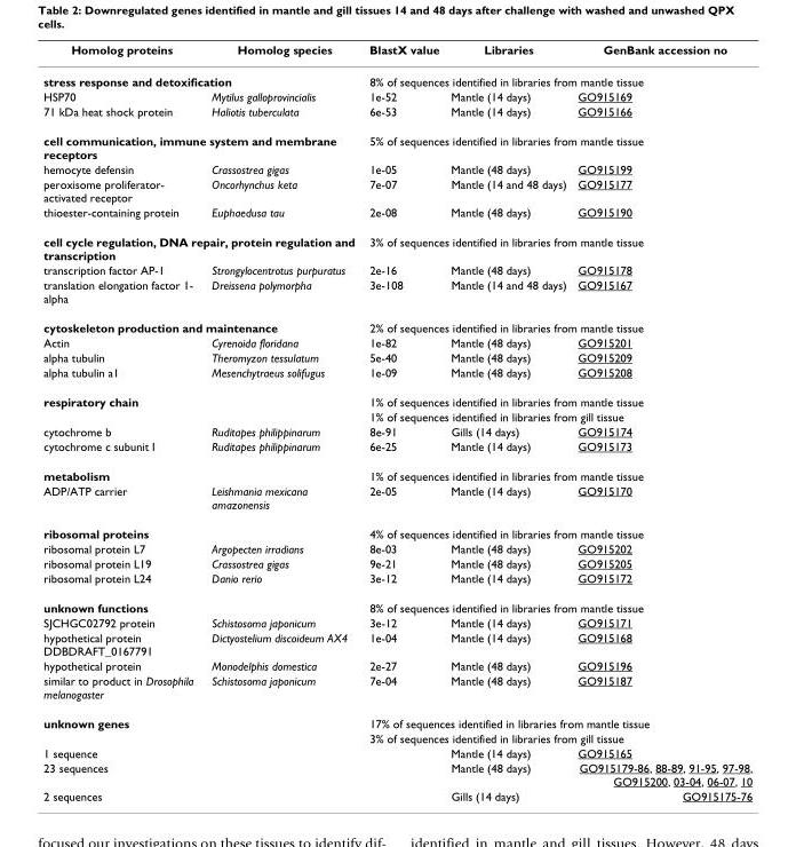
<table><thead><tr><td>Homolog proteins</td><td>Homolog species</td><td>BlastX value</td><td>Libraries</td><td>GenBank accession no</td></tr></thead><tbody><tr><td colspan="2">stress response and detoxification</td><td colspan="3">8% of sequences identified in libraries from mantle tissue</td></tr><tr><td>HSP70</td><td>Mytilus galloprovincialis</td><td>1e-52</td><td>Mantle (14 days)</td><td>GO915169</td></tr><tr><td>71 kDa heat shock protein</td><td>Haliotis tuberculata</td><td>6e-53</td><td>Mantle (14 days)</td><td>GO915166</td></tr><tr><td colspan="2">cell communication, immune system and membrane receptors</td><td colspan="3">5% of sequences identified in libraries from mantle tissue</td></tr><tr><td>hemocyte defensin</td><td>Crassostrea gigas</td><td>1e-05</td><td>Mantle (48 days)</td><td>GO915199</td></tr><tr><td>peroxisome proliferator- activated receptor</td><td>Oncorhynchus keta</td><td>7e-07</td><td>Mantle (14 and 48 days)</td><td>GO915177</td></tr><tr><td>thioester-containing protein</td><td>Euphaedusa tau</td><td>2e-08</td><td>Mantle (48 days)</td><td>GO915190</td></tr><tr><td colspan="2">cell cycle regulation, DNA repair, protein regulation and transcription</td><td colspan="3">3% of sequences identified in libraries from mantle tissue</td></tr><tr><td>transcription factor AP-1</td><td>Strongylocentrotus purpuratus</td><td>2e-16</td><td>Mantle (48 days)</td><td>GO915178</td></tr><tr><td>translation elongation factor 1- alpha</td><td>Dreissena polymorpha</td><td>3e-108</td><td>Mantle (14 and 48 days)</td><td>GO915167</td></tr><tr><td colspan="2">cytoskeleton production and maintenance</td><td colspan="3">2% of sequences identified in libraries from mantle tissue</td></tr><tr><td>Actin</td><td>Cyrenoida floridana</td><td>1e-82</td><td>Mantle (48 days)</td><td>GO915201</td></tr><tr><td>alpha tubulin</td><td>Theromyzon tessulatum</td><td>5e-40</td><td>Mantle (48 days)</td><td>GO915209</td></tr><tr><td>alpha tubulin a1</td><td>Mesenchytraeus solifugus</td><td>1e-09</td><td>Mantle (48 days)</td><td>GO915208</td></tr><tr><td colspan="2">respiratory chain</td><td colspan="3">1% of sequences identified in libraries from mantle tissue</td></tr><tr><td></td><td></td><td colspan="3">1% of sequences identified in libraries from gill tissue</td></tr><tr><td>cytochrome b</td><td>Ruditapes philippinarum</td><td>8e-91</td><td>Gills (14 days)</td><td>GO915174</td></tr><tr><td>cytochrome c subunit I</td><td>Ruditapes philippinarum</td><td>6e-25</td><td>Mantle (14 days)</td><td>GO915173</td></tr><tr><td colspan="2">metabolism</td><td colspan="3">1% of sequences identified in libraries from mantle tissue</td></tr><tr><td>ADP/ATP carrier</td><td>Leishmania mexicana amazonensis</td><td>2e-05</td><td>Mantle (14 days)</td><td>GO915170</td></tr><tr><td colspan="2">ribosomal proteins</td><td colspan="3">4% of sequences identified in libraries from mantle tissue</td></tr><tr><td>ribosomal protein L7</td><td>Argopecten irradians</td><td>8e-03</td><td>Mantle (48 days)</td><td>GO915202</td></tr><tr><td>ribosomal protein L19</td><td>Crassostrea gigas</td><td>9e-21</td><td>Mantle (48 days)</td><td>GO915205</td></tr><tr><td>ribosomal protein L24</td><td>Danio rerio</td><td>3e-12</td><td>Mantle (14 days)</td><td>GO915172</td></tr><tr><td colspan="2">unknown functions</td><td colspan="3">8% of sequences identified in libraries from mantle tissue</td></tr><tr><td>SJCHGC02792 protein</td><td>Schistosoma japonicum</td><td>3e-12</td><td>Mantle (14 days)</td><td>GO915171</td></tr><tr><td>hypothetical protein DDBDRAFT_0167791</td><td>Dictyostelium discoideum AX4</td><td>1e-04</td><td>Mantle (14 days)</td><td>GO915168</td></tr><tr><td>hypothetical protein</td><td>Monodelphis domestica</td><td>2e-27</td><td>Mantle (48 days)</td><td>GO915196</td></tr><tr><td>similar to product in Drosophila melanogaster</td><td>Schistosoma japonicum</td><td>7e-04</td><td>Mantle (48 days)</td><td>GO915187</td></tr><tr><td colspan="2">unknown genes</td><td colspan="3">17% of sequences identified in libraries from mantle tissue</td></tr><tr><td></td><td></td><td colspan="3">3% of sequences identified in libraries from gill tissue</td></tr><tr><td>1 sequence</td><td></td><td></td><td>Mantle (14 days)</td><td>GO915165</td></tr><tr><td>23 sequences</td><td></td><td></td><td>Mantle (48 days)</td><td>GO915179-86, 88-89, 91-95, 97-98, GO915200, 03-04, 06-07, 10</td></tr><tr><td>2 sequences</td><td></td><td></td><td>Gills (14 days)</td><td>GO915175-76</td></tr></tbody></table>